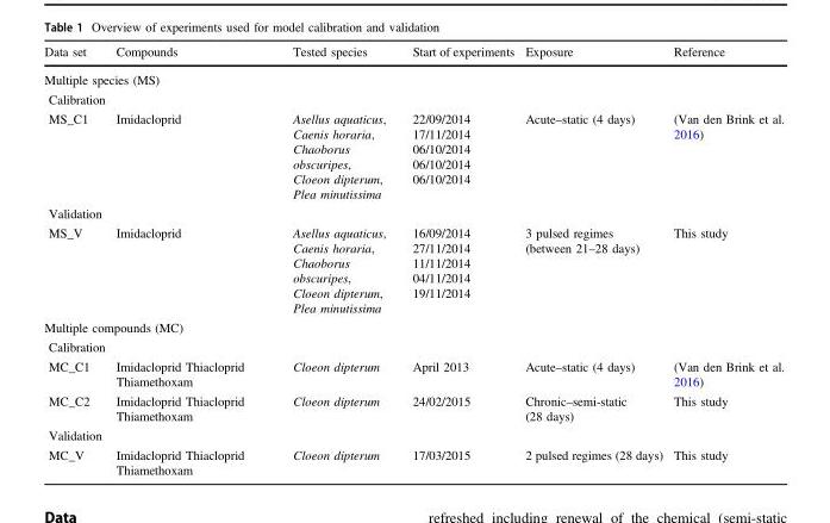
<table><thead><tr><td>Data set</td><td>Compounds</td><td>Tested species</td><td>Start of experiments</td><td>Exposure</td><td>Reference</td></tr></thead><tbody><tr><td colspan="6">Multiple species (MS)</td></tr><tr><td colspan="6">Calibration</td></tr><tr><td>MS_C1</td><td>Imidacloprid</td><td>Asellus aquaticus, Caenis horaria, Chaoborus obscuripes, Cloeon dipterum, Plea minutissima</td><td>22/09/2014 17/11/2014 06/10/2014 06/10/2014 06/10/2014</td><td>Acute–static (4 days)</td><td>(Van den Brink et al. 2016)</td></tr><tr><td colspan="6">Validation</td></tr><tr><td>MS_V</td><td>Imidacloprid</td><td>Asellus aquaticus, Caenis horaria, Chaoborus obscuripes, Cloeon dipterum, Plea minutissima</td><td>16/09/2014 27/11/2014 11/11/2014 04/11/2014 19/11/2014</td><td>3 pulsed regimes (between 21–28 days)</td><td>This study</td></tr><tr><td colspan="6">Multiple compounds (MC)</td></tr><tr><td colspan="6">Calibration</td></tr><tr><td>MC_C1</td><td>Imidacloprid Thiacloprid Thiamethoxam</td><td>Cloeon dipterum</td><td>April 2013</td><td>Acute–static (4 days)</td><td>(Van den Brink et al. 2016)</td></tr><tr><td>MC_C2</td><td>Imidacloprid Thiacloprid Thiamethoxam</td><td>Cloeon dipterum</td><td>24/02/2015</td><td>Chronic–semi-static (28 days)</td><td>This study</td></tr><tr><td colspan="6">Validation</td></tr><tr><td>MC_V</td><td>Imidacloprid Thiacloprid Thiamethoxam</td><td>Cloeon dipterum</td><td>17/03/2015</td><td>2 pulsed regimes (28 days)</td><td>This study</td></tr></tbody></table>